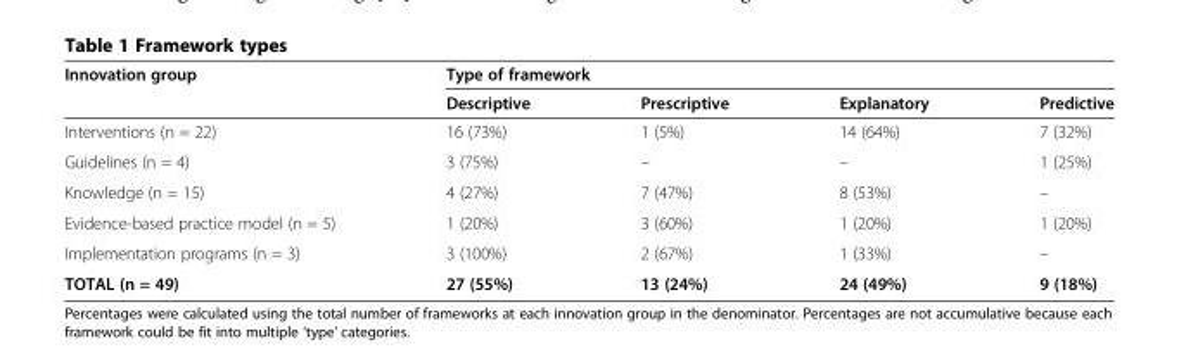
<table><thead><tr><td rowspan="2">Innovation group</td><td colspan="4">Type of framework</td></tr><tr><td>Descriptive</td><td>Prescriptive</td><td>Explanatory</td><td>Predictive</td></tr></thead><tbody><tr><td>Interventions (n = 22)</td><td>16 (73%)</td><td>1 (5%)</td><td>14 (64%)</td><td>7 (32%)</td></tr><tr><td>Guidelines (n = 4)</td><td>3 (75%)</td><td>–</td><td>–</td><td>1 (25%)</td></tr><tr><td>Knowledge (n = 15)</td><td>4 (27%)</td><td>7 (47%)</td><td>8 (53%)</td><td>–</td></tr><tr><td>Evidence-based practice model (n = 5)</td><td>1 (20%)</td><td>3 (60%)</td><td>1 (20%)</td><td>1 (20%)</td></tr><tr><td>Implementation programs (n = 3)</td><td>3 (100%)</td><td>2 (67%)</td><td>1 (33%)</td><td>–</td></tr><tr><td>TOTAL (n = 49)</td><td>27 (55%)</td><td>13 (24%)</td><td>24 (49%)</td><td>9 (18%)</td></tr></tbody></table>